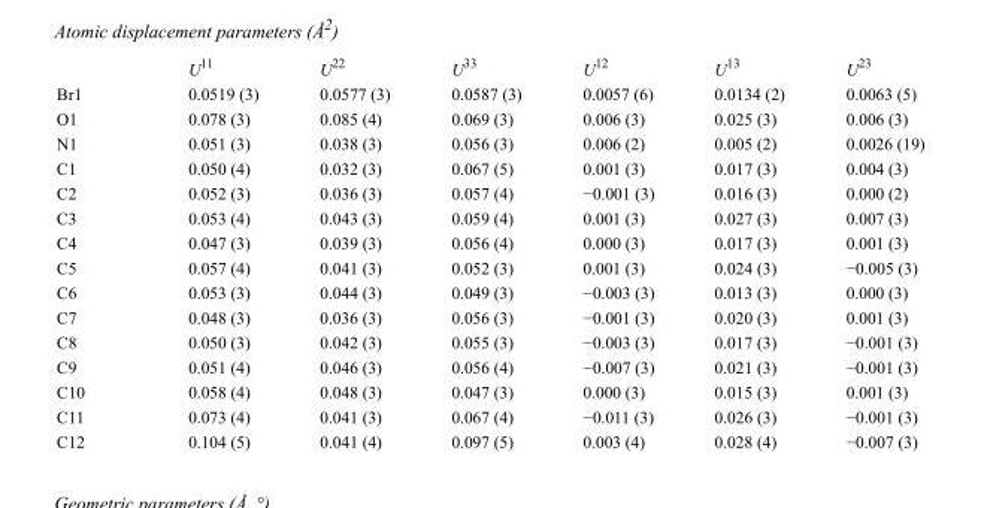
<table><thead><tr><td></td><td>U<sup>11</sup></td><td>U<sup>22</sup></td><td>U<sup>33</sup></td><td>U<sup>12</sup></td><td>U<sup>13</sup></td><td>U<sup>23</sup></td></tr></thead><tbody><tr><td>Br1</td><td>0.0519 (3)</td><td>0.0577 (3)</td><td>0.0587 (3)</td><td>0.0057 (6)</td><td>0.0134 (2)</td><td>0.0063 (5)</td></tr><tr><td>O1</td><td>0.078 (3)</td><td>0.085 (4)</td><td>0.069 (3)</td><td>0.006 (3)</td><td>0.025 (3)</td><td>0.006 (3)</td></tr><tr><td>N1</td><td>0.051 (3)</td><td>0.038 (3)</td><td>0.056 (3)</td><td>0.006 (2)</td><td>0.005 (2)</td><td>0.0026 (19)</td></tr><tr><td>C1</td><td>0.050 (4)</td><td>0.032 (3)</td><td>0.067 (5)</td><td>0.001 (3)</td><td>0.017 (3)</td><td>0.004 (3)</td></tr><tr><td>C2</td><td>0.052 (3)</td><td>0.036 (3)</td><td>0.057 (4)</td><td>−0.001 (3)</td><td>0.016 (3)</td><td>0.000 (2)</td></tr><tr><td>C3</td><td>0.053 (4)</td><td>0.043 (3)</td><td>0.059 (4)</td><td>0.001 (3)</td><td>0.027 (3)</td><td>0.007 (3)</td></tr><tr><td>C4</td><td>0.047 (3)</td><td>0.039 (3)</td><td>0.056 (4)</td><td>0.000 (3)</td><td>0.017 (3)</td><td>0.001 (3)</td></tr><tr><td>C5</td><td>0.057 (4)</td><td>0.041 (3)</td><td>0.052 (3)</td><td>0.001 (3)</td><td>0.024 (3)</td><td>−0.005 (3)</td></tr><tr><td>C6</td><td>0.053 (3)</td><td>0.044 (3)</td><td>0.049 (3)</td><td>−0.003 (3)</td><td>0.013 (3)</td><td>0.000 (3)</td></tr><tr><td>C7</td><td>0.048 (3)</td><td>0.036 (3)</td><td>0.056 (3)</td><td>−0.001 (3)</td><td>0.020 (3)</td><td>0.001 (3)</td></tr><tr><td>C8</td><td>0.050 (3)</td><td>0.042 (3)</td><td>0.055 (3)</td><td>−0.003 (3)</td><td>0.017 (3)</td><td>−0.001 (3)</td></tr><tr><td>C9</td><td>0.051 (4)</td><td>0.046 (3)</td><td>0.056 (4)</td><td>−0.007 (3)</td><td>0.021 (3)</td><td>−0.001 (3)</td></tr><tr><td>C10</td><td>0.058 (4)</td><td>0.048 (3)</td><td>0.047 (3)</td><td>0.000 (3)</td><td>0.015 (3)</td><td>0.001 (3)</td></tr><tr><td>C11</td><td>0.073 (4)</td><td>0.041 (3)</td><td>0.067 (4)</td><td>−0.011 (3)</td><td>0.026 (3)</td><td>−0.001 (3)</td></tr><tr><td>C12</td><td>0.104 (5)</td><td>0.041 (4)</td><td>0.097 (5)</td><td>0.003 (4)</td><td>0.028 (4)</td><td>−0.007 (3)</td></tr></tbody></table>